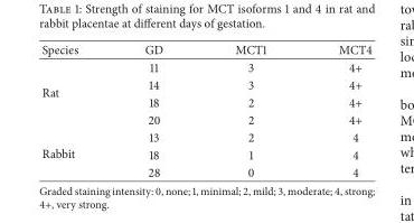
<table><thead><tr><td>Species</td><td>GD</td><td>MCT1</td><td>MCT4</td></tr></thead><tbody><tr><td rowspan="4">Rat</td><td>11</td><td>3</td><td>4+</td></tr><tr><td>14</td><td>3</td><td>4+</td></tr><tr><td>18</td><td>2</td><td>4+</td></tr><tr><td>20</td><td>2</td><td>4+</td></tr><tr><td rowspan="3">Rabbit</td><td>13</td><td>2</td><td>4</td></tr><tr><td>18</td><td>1</td><td>4</td></tr><tr><td>28</td><td>0</td><td>4</td></tr></tbody></table>